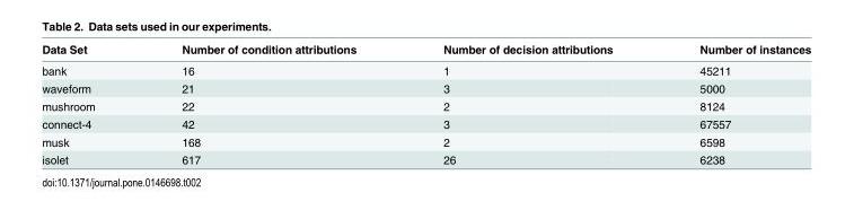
<table><thead><tr><td>Data Set</td><td>Number of condition attributions</td><td>Number of decision attributions</td><td>Number of instances</td></tr></thead><tbody><tr><td>bank</td><td>16</td><td>1</td><td>45211</td></tr><tr><td>waveform</td><td>21</td><td>3</td><td>5000</td></tr><tr><td>mushroom</td><td>22</td><td>2</td><td>8124</td></tr><tr><td>connect-4</td><td>42</td><td>3</td><td>67557</td></tr><tr><td>musk</td><td>168</td><td>2</td><td>6598</td></tr><tr><td>isolet</td><td>617</td><td>26</td><td>6238</td></tr></tbody></table>